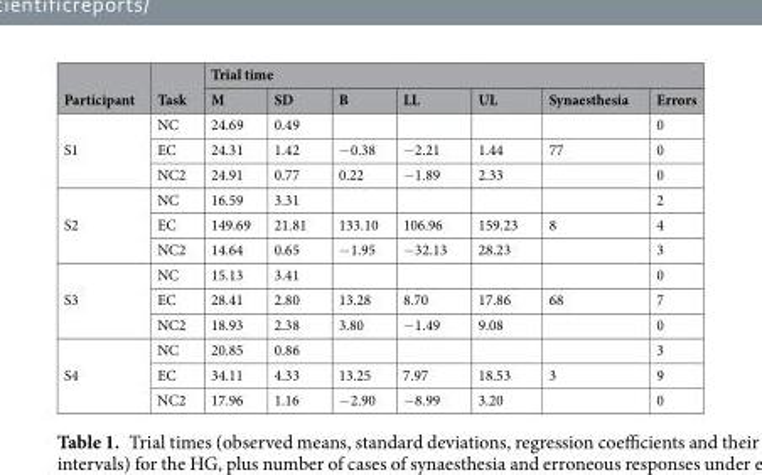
<table><thead><tr><td rowspan="2">Participant</td><td rowspan="2">Task</td><td colspan="7">Trial time</td></tr><tr><td>M</td><td>SD</td><td>B</td><td>LL</td><td>UL</td><td>Synaesthesia</td><td>Errors</td></tr></thead><tbody><tr><td rowspan="3">S1</td><td>NC</td><td>24.69</td><td>0.49</td><td></td><td></td><td></td><td></td><td>0</td></tr><tr><td>EC</td><td>24.31</td><td>1.42</td><td>−0.38</td><td>−2.21</td><td>1.44</td><td>77</td><td>0</td></tr><tr><td>NC2</td><td>24.91</td><td>0.77</td><td>0.22</td><td>−1.89</td><td>2.33</td><td></td><td>0</td></tr><tr><td rowspan="3">S2</td><td>NC</td><td>16.59</td><td>3.31</td><td></td><td></td><td></td><td></td><td>2</td></tr><tr><td>EC</td><td>149.69</td><td>21.81</td><td>133.10</td><td>106.96</td><td>159.23</td><td>8</td><td>4</td></tr><tr><td>NC2</td><td>14.64</td><td>0.65</td><td>−1.95</td><td>−32.13</td><td>28.23</td><td></td><td>3</td></tr><tr><td rowspan="3">S3</td><td>NC</td><td>15.13</td><td>3.41</td><td></td><td></td><td></td><td></td><td>0</td></tr><tr><td>EC</td><td>28.41</td><td>2.80</td><td>13.28</td><td>8.70</td><td>17.86</td><td>68</td><td>7</td></tr><tr><td>NC2</td><td>18.93</td><td>2.38</td><td>3.80</td><td>−1.49</td><td>9.08</td><td></td><td>0</td></tr><tr><td rowspan="3">S4</td><td>NC</td><td>20.85</td><td>0.86</td><td></td><td></td><td></td><td></td><td>3</td></tr><tr><td>EC</td><td>34.11</td><td>4.33</td><td>13.25</td><td>7.97</td><td>18.53</td><td>3</td><td>9</td></tr><tr><td>NC2</td><td>17.96</td><td>1.16</td><td>−2.90</td><td>−8.99</td><td>3.20</td><td></td><td>0</td></tr></tbody></table>